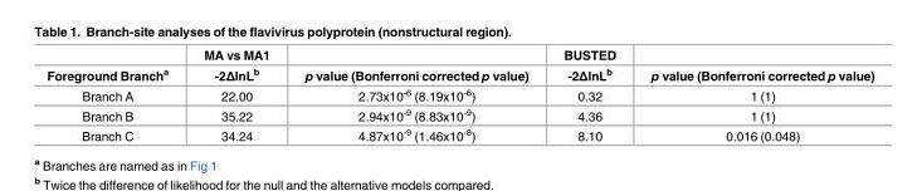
<table><thead><tr><td rowspan="2">Foreground Branch<sup>a</sup></td><td rowspan="2">MA vs MA1 -2ΔlnL<sup>b</sup></td><td rowspan="2">p value (Bonferroni corrected p value)</td><td rowspan="2">BUSTED -2ΔlnL<sup>b</sup></td><td rowspan="2">p value (Bonferroni corrected p value)</td></tr><tr></tr></thead><tbody><tr><td>Branch A</td><td>22.00</td><td>2.73x10<sup>-6</sup> (8.19x10<sup>-6</sup>)</td><td>0.32</td><td>1 (1)</td></tr><tr><td>Branch B</td><td>35.22</td><td>2.94x10<sup>-9</sup> (8.83x10<sup>-9</sup>)</td><td>4.36</td><td>1 (1)</td></tr><tr><td>Branch C</td><td>34.24</td><td>4.87x10<sup>-9</sup> (1.46x10<sup>-8</sup>)</td><td>8.10</td><td>0.016 (0.048)</td></tr></tbody></table>